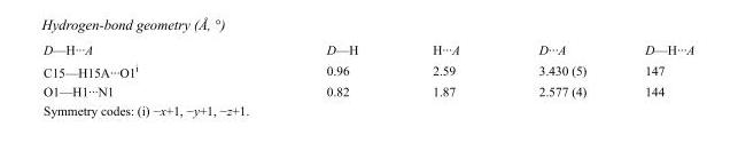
<table><tbody><tr><td>D—H···A</td><td>D—H</td><td>H···A</td><td>D···A</td><td>D—H···A</td></tr><tr><td>C15—H15A···O1<sup>i</sup></td><td>0.96</td><td>2.59</td><td>3.430 (5)</td><td>147</td></tr><tr><td>O1—H1···N1</td><td>0.82</td><td>1.87</td><td>2.577 (4)</td><td>144</td></tr></tbody></table>